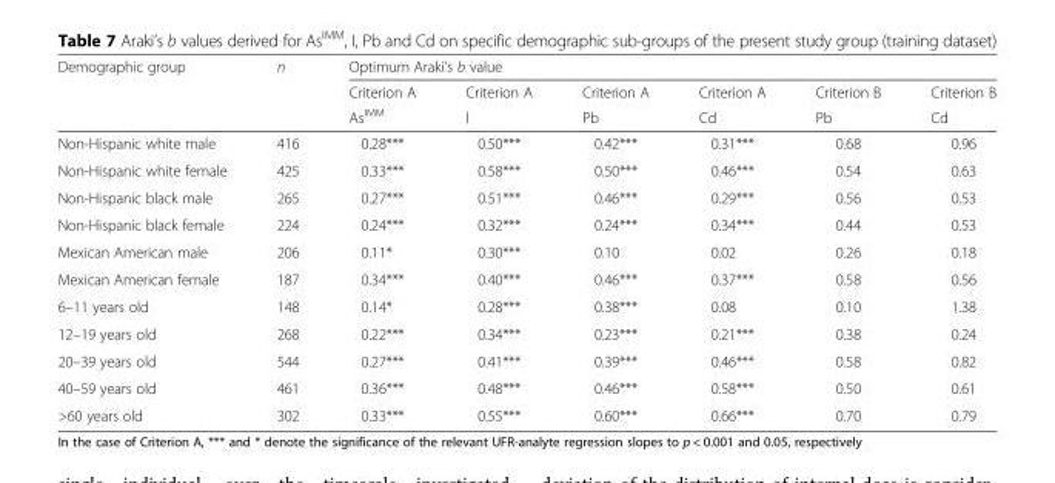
<table><thead><tr><td rowspan="3">Demographic group</td><td rowspan="3">n</td><td colspan="6">Optimum Araki’s b value</td></tr><tr><td rowspan="2">Criterion A As<sup>IMM</sup></td><td rowspan="2">Criterion A I</td><td rowspan="2">Criterion A Pb</td><td rowspan="2">Criterion A Cd</td><td rowspan="2">Criterion B Pb</td><td rowspan="2">Criterion B Cd</td></tr><tr></tr></thead><tbody><tr><td>Non-Hispanic white male</td><td>416</td><td>0.28***</td><td>0.50***</td><td>0.42***</td><td>0.31***</td><td>0.68</td><td>0.96</td></tr><tr><td>Non-Hispanic white female</td><td>425</td><td>0.33***</td><td>0.58***</td><td>0.50***</td><td>0.46***</td><td>0.54</td><td>0.63</td></tr><tr><td>Non-Hispanic black male</td><td>265</td><td>0.27***</td><td>0.51***</td><td>0.46***</td><td>0.29***</td><td>0.56</td><td>0.53</td></tr><tr><td>Non-Hispanic black female</td><td>224</td><td>0.24***</td><td>0.32***</td><td>0.24***</td><td>0.34***</td><td>0.44</td><td>0.53</td></tr><tr><td>Mexican American male</td><td>206</td><td>0.11*</td><td>0.30***</td><td>0.10</td><td>0.02</td><td>0.26</td><td>0.18</td></tr><tr><td>Mexican American female</td><td>187</td><td>0.34***</td><td>0.40***</td><td>0.46***</td><td>0.37***</td><td>0.58</td><td>0.56</td></tr><tr><td>6–11 years old</td><td>148</td><td>0.14*</td><td>0.28***</td><td>0.38***</td><td>0.08</td><td>0.10</td><td>1.38</td></tr><tr><td>12–19 years old</td><td>268</td><td>0.22***</td><td>0.34***</td><td>0.23***</td><td>0.21***</td><td>0.38</td><td>0.24</td></tr><tr><td>20–39 years old</td><td>544</td><td>0.27***</td><td>0.41***</td><td>0.39***</td><td>0.46***</td><td>0.58</td><td>0.82</td></tr><tr><td>40–59 years old</td><td>461</td><td>0.36***</td><td>0.48***</td><td>0.46***</td><td>0.58***</td><td>0.50</td><td>0.61</td></tr><tr><td>&gt;60 years old</td><td>302</td><td>0.33***</td><td>0.55***</td><td>0.60***</td><td>0.66***</td><td>0.70</td><td>0.79</td></tr></tbody></table>